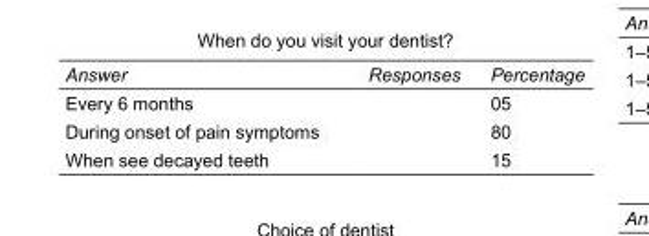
<table><tbody><tr><td>Answer</td><td>Responses</td><td>Percentage</td></tr><tr><td>Every 6 months</td><td></td><td>05</td></tr><tr><td>During onset of pain symptoms</td><td></td><td>80</td></tr><tr><td>When see decayed teeth</td><td></td><td>15</td></tr></tbody></table>